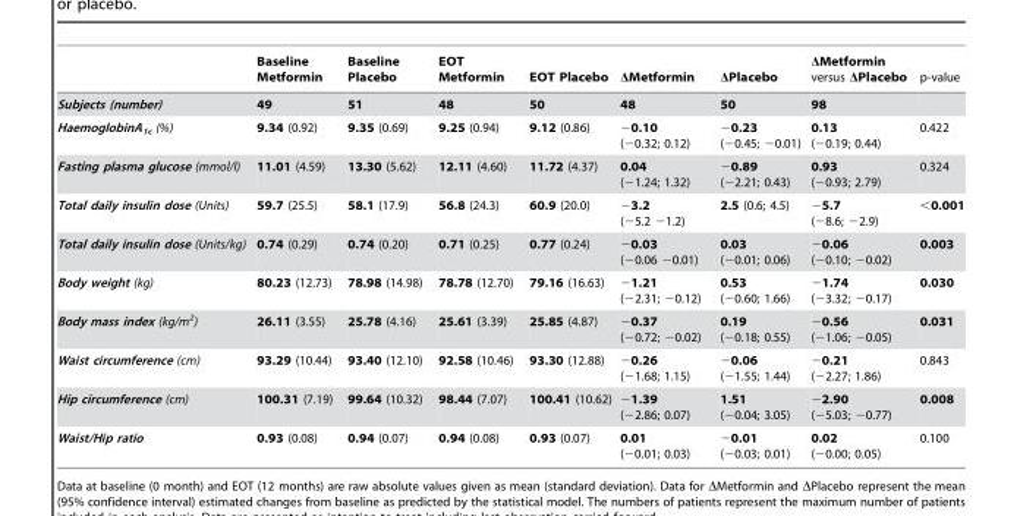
<table><thead><tr><td></td><td>Baseline Metformin</td><td>Baseline Placebo</td><td>EOT Metformin</td><td>EOT Placebo</td><td>ΔMetformin</td><td>ΔPlacebo</td><td>ΔMetformin versus ΔPlacebo</td><td>p-value</td></tr></thead><tbody><tr><td>Subjects (number)</td><td>49</td><td>51</td><td>48</td><td>50</td><td>48</td><td>50</td><td>98</td><td></td></tr><tr><td>HaemoglobinA<sub>1c</sub> (%)</td><td>9.34 (0.92)</td><td>9.35 (0.69)</td><td>9.25 (0.94)</td><td>9.12 (0.86)</td><td>−0.10 (−0.32; 0.12)</td><td>−0.23 (−0.45; −0.01)</td><td>0.13 (−0.19; 0.44)</td><td>0.422</td></tr><tr><td>Fasting plasma glucose (mmol/l)</td><td>11.01 (4.59)</td><td>13.30 (5.62)</td><td>12.11 (4.60)</td><td>11.72 (4.37)</td><td>0.04 (−1.24; 1.32)</td><td>−0.89 (−2.21; 0.43)</td><td>0.93 (−0.93; 2.79)</td><td>0.324</td></tr><tr><td>Total daily insulin dose (Units)</td><td>59.7 (25.5)</td><td>58.1 (17.9)</td><td>56.8 (24.3)</td><td>60.9 (20.0)</td><td>−3.2 (−5.2 −1.2)</td><td>2.5 (0.6; 4.5)</td><td>−5.7 (−8.6; −2.9)</td><td>&lt;0.001</td></tr><tr><td>Total daily insulin dose (Units/kg)</td><td>0.74 (0.29)</td><td>0.74 (0.20)</td><td>0.71 (0.25)</td><td>0.77 (0.24)</td><td>−0.03 (−0.06 −0.01)</td><td>0.03 (−0.01; 0.06)</td><td>−0.06 (−0.10; −0.02)</td><td>0.003</td></tr><tr><td>Body weight (kg)</td><td>80.23 (12.73)</td><td>78.98 (14.98)</td><td>78.78 (12.70)</td><td>79.16 (16.63)</td><td>−1.21 (−2.31; −0.12)</td><td>0.53 (−0.60; 1.66)</td><td>−1.74 (−3.32; −0.17)</td><td>0.030</td></tr><tr><td>Body mass index (kg/m<sup>2</sup>)</td><td>26.11 (3.55)</td><td>25.78 (4.16)</td><td>25.61 (3.39)</td><td>25.85 (4.87)</td><td>−0.37 (−0.72; −0.02)</td><td>0.19 (−0.18; 0.55)</td><td>−0.56 (−1.06; −0.05)</td><td>0.031</td></tr><tr><td>Waist circumference (cm)</td><td>93.29 (10.44)</td><td>93.40 (12.10)</td><td>92.58 (10.46)</td><td>93.30 (12.88)</td><td>−0.26 (−1.68; 1.15)</td><td>−0.06 (−1.55; 1.44)</td><td>−0.21 (−2.27; 1.86)</td><td>0.843</td></tr><tr><td>Hip circumference (cm)</td><td>100.31 (7.19)</td><td>99.64 (10.32)</td><td>98.44 (7.07)</td><td>100.41 (10.62)</td><td>−1.39 (−2.86; 0.07)</td><td>1.51 (−0.04; 3.05)</td><td>−2.90 (−5.03; −0.77)</td><td>0.008</td></tr><tr><td>Waist/Hip ratio</td><td>0.93 (0.08)</td><td>0.94 (0.07)</td><td>0.94 (0.08)</td><td>0.93 (0.07)</td><td>0.01 (−0.01; 0.03)</td><td>−0.01 (−0.03; 0.01)</td><td>0.02 (−0.00; 0.05)</td><td>0.100</td></tr></tbody></table>